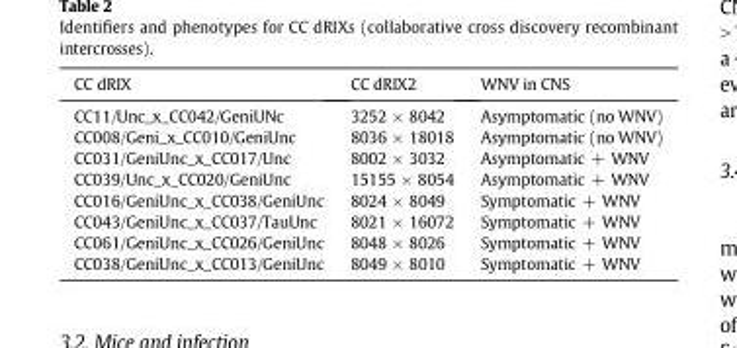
<table><thead><tr><td>CC dRIX</td><td>CC dRIX2</td><td>WNV in CNS</td></tr></thead><tbody><tr><td>CC11/Unc_x_CC042/GeniUNc</td><td>3252 × 8042</td><td>Asymptomatic (no WNV)</td></tr><tr><td>CC008/Geni_x_CC010/GeniUnc</td><td>8036 × 18018</td><td>Asymptomatic (no WNV)</td></tr><tr><td>CC031/GeniUnc_x_CC017/Unc</td><td>8002 × 3032</td><td>Asymptomatic + WNV</td></tr><tr><td>CC039/Unc_x_CC020/GeniUnc</td><td>15155 × 8054</td><td>Asymptomatic + WNV</td></tr><tr><td>CC016/GeniUnc_x_CC038/GeniUnc</td><td>8024 × 8049</td><td>Symptomatic + WNV</td></tr><tr><td>CC043/GeniUnc_x_CC037/TauUnc</td><td>8021 × 16072</td><td>Symptomatic + WNV</td></tr><tr><td>CC061/GeniUnc_x_CC026/GeniUnc</td><td>8048 × 8026</td><td>Symptomatic + WNV</td></tr><tr><td>CC038/GeniUnc_x_CC013/GeniUnc</td><td>8049 × 8010</td><td>Symptomatic + WNV</td></tr></tbody></table>